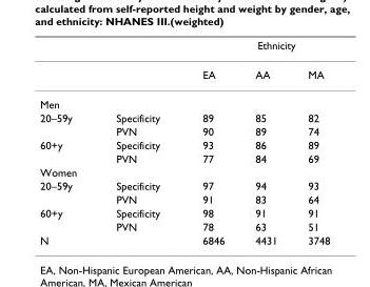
<table><thead><tr><td rowspan="2"></td><td rowspan="2"></td><td colspan="3">Ethnicity</td></tr><tr><td>EA</td><td>AA</td><td>MA</td></tr></thead><tbody><tr><td colspan="5">Men</td></tr><tr><td rowspan="2">20–59y</td><td>Specificity</td><td>89</td><td>85</td><td>82</td></tr><tr><td>PVN</td><td>90</td><td>89</td><td>74</td></tr><tr><td rowspan="2">60+y</td><td>Specificity</td><td>93</td><td>86</td><td>89</td></tr><tr><td>PVN</td><td>77</td><td>84</td><td>69</td></tr><tr><td colspan="5">Women</td></tr><tr><td rowspan="2">20–59y</td><td>Specificity</td><td>97</td><td>94</td><td>93</td></tr><tr><td>PVN</td><td>91</td><td>83</td><td>64</td></tr><tr><td rowspan="2">60+y</td><td>Specificity</td><td>98</td><td>91</td><td>91</td></tr><tr><td>PVN</td><td>78</td><td>63</td><td>51</td></tr><tr><td>N</td><td></td><td>6846</td><td>4431</td><td>3748</td></tr></tbody></table>